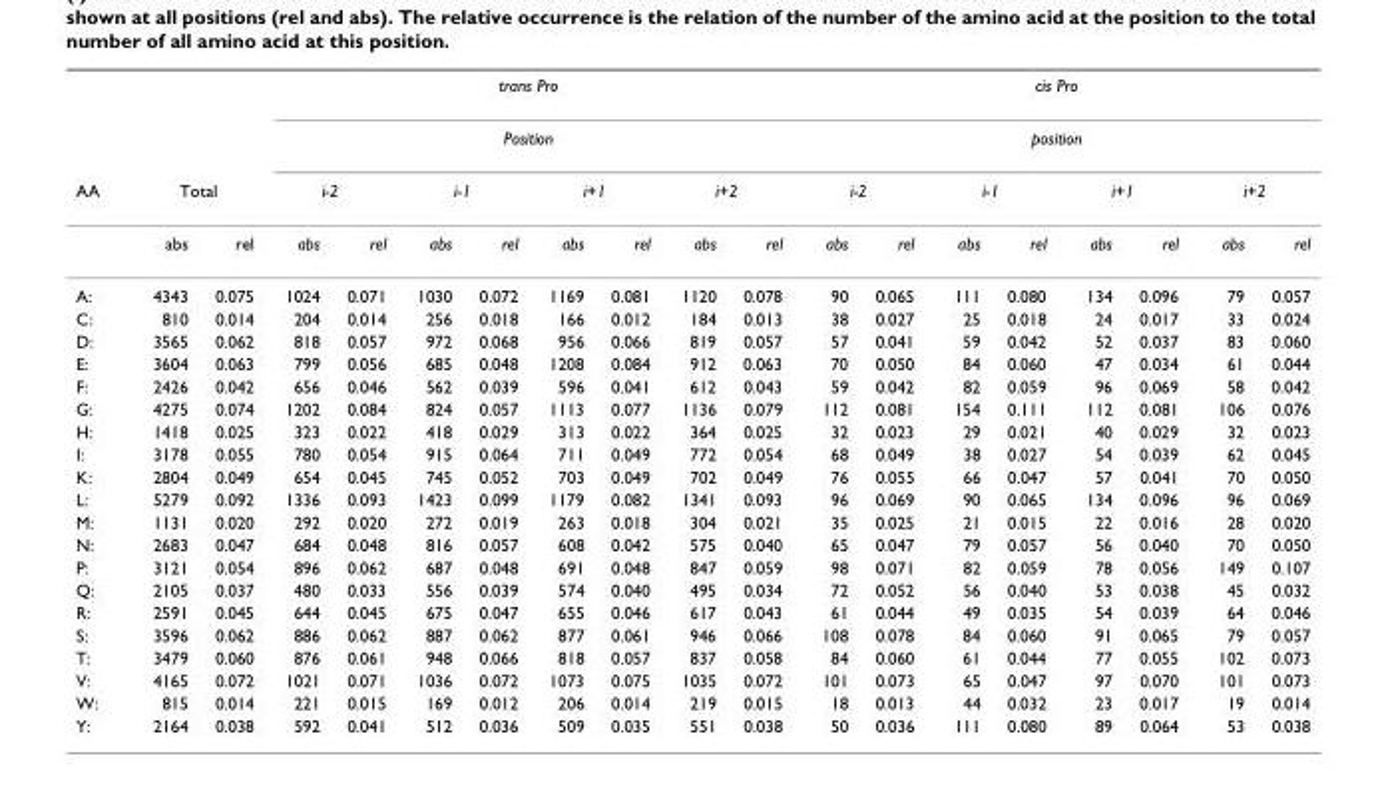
<table><thead><tr><td rowspan="4">AA</td><td rowspan="2"></td><td rowspan="2"></td><td rowspan="2" colspan="8">trans Pro Position</td><td rowspan="2" colspan="8">cis Pro position</td></tr><tr></tr><tr><td colspan="2">Total</td><td colspan="2">i-2</td><td colspan="2">i-1</td><td colspan="2">i+1</td><td colspan="2">i+2</td><td colspan="2">i-2</td><td colspan="2">i-1</td><td colspan="2">i+1</td><td colspan="2">i+2</td></tr><tr><td>abs</td><td>rel</td><td>abs</td><td>rel</td><td>abs</td><td>rel</td><td>abs</td><td>rel</td><td>abs</td><td>rel</td><td>abs</td><td>rel</td><td>abs</td><td>rel</td><td>abs</td><td>rel</td><td>abs</td><td>rel</td></tr></thead><tbody><tr><td>A:</td><td>4343</td><td>0.075</td><td>1024</td><td>0.071</td><td>1030</td><td>0.072</td><td>1169</td><td>0.081</td><td>1120</td><td>0.078</td><td>90</td><td>0.065</td><td>111</td><td>0.080</td><td>134</td><td>0.096</td><td>79</td><td>0.057</td></tr><tr><td>C:</td><td>810</td><td>0.014</td><td>204</td><td>0.014</td><td>256</td><td>0.018</td><td>166</td><td>0.012</td><td>184</td><td>0.013</td><td>38</td><td>0.027</td><td>25</td><td>0.018</td><td>24</td><td>0.017</td><td>33</td><td>0.024</td></tr><tr><td>D:</td><td>3565</td><td>0.062</td><td>818</td><td>0.057</td><td>972</td><td>0.068</td><td>956</td><td>0.066</td><td>819</td><td>0.057</td><td>57</td><td>0.041</td><td>59</td><td>0.042</td><td>52</td><td>0.037</td><td>83</td><td>0.060</td></tr><tr><td>E:</td><td>3604</td><td>0.063</td><td>799</td><td>0.056</td><td>685</td><td>0.048</td><td>1208</td><td>0.084</td><td>912</td><td>0.063</td><td>70</td><td>0.050</td><td>84</td><td>0.060</td><td>47</td><td>0.034</td><td>61</td><td>0.044</td></tr><tr><td>F:</td><td>2426</td><td>0.042</td><td>656</td><td>0.046</td><td>562</td><td>0.039</td><td>596</td><td>0.041</td><td>612</td><td>0.043</td><td>59</td><td>0.042</td><td>82</td><td>0.059</td><td>96</td><td>0.069</td><td>58</td><td>0.042</td></tr><tr><td>G:</td><td>4275</td><td>0.074</td><td>1202</td><td>0.084</td><td>824</td><td>0.057</td><td>1113</td><td>0.077</td><td>1136</td><td>0.079</td><td>112</td><td>0.081</td><td>154</td><td>0.111</td><td>112</td><td>0.081</td><td>106</td><td>0.076</td></tr><tr><td>H:</td><td>1418</td><td>0.025</td><td>323</td><td>0.022</td><td>418</td><td>0.029</td><td>313</td><td>0.022</td><td>364</td><td>0.025</td><td>32</td><td>0.023</td><td>29</td><td>0.021</td><td>40</td><td>0.029</td><td>32</td><td>0.023</td></tr><tr><td>I:</td><td>3178</td><td>0.055</td><td>780</td><td>0.054</td><td>915</td><td>0.064</td><td>711</td><td>0.049</td><td>772</td><td>0.054</td><td>68</td><td>0.049</td><td>38</td><td>0.027</td><td>54</td><td>0.039</td><td>62</td><td>0.045</td></tr><tr><td>K:</td><td>2804</td><td>0.049</td><td>654</td><td>0.045</td><td>745</td><td>0.052</td><td>703</td><td>0.049</td><td>702</td><td>0.049</td><td>76</td><td>0.055</td><td>66</td><td>0.047</td><td>57</td><td>0.041</td><td>70</td><td>0.050</td></tr><tr><td>L:</td><td>5279</td><td>0.092</td><td>1336</td><td>0.093</td><td>1423</td><td>0.099</td><td>1179</td><td>0.082</td><td>1341</td><td>0.093</td><td>96</td><td>0.069</td><td>90</td><td>0.065</td><td>134</td><td>0.096</td><td>96</td><td>0.069</td></tr><tr><td>M:</td><td>1131</td><td>0.020</td><td>292</td><td>0.020</td><td>272</td><td>0.019</td><td>263</td><td>0.018</td><td>304</td><td>0.021</td><td>35</td><td>0.025</td><td>21</td><td>0.015</td><td>22</td><td>0.016</td><td>28</td><td>0.020</td></tr><tr><td>N:</td><td>2683</td><td>0.047</td><td>684</td><td>0.048</td><td>816</td><td>0.057</td><td>608</td><td>0.042</td><td>575</td><td>0.040</td><td>65</td><td>0.047</td><td>79</td><td>0.057</td><td>56</td><td>0.040</td><td>70</td><td>0.050</td></tr><tr><td>P:</td><td>3121</td><td>0.054</td><td>896</td><td>0.062</td><td>687</td><td>0.048</td><td>691</td><td>0.048</td><td>847</td><td>0.059</td><td>98</td><td>0.071</td><td>82</td><td>0.059</td><td>78</td><td>0.056</td><td>149</td><td>0.107</td></tr><tr><td>Q:</td><td>2105</td><td>0.037</td><td>480</td><td>0.033</td><td>556</td><td>0.039</td><td>574</td><td>0.040</td><td>495</td><td>0.034</td><td>72</td><td>0.052</td><td>56</td><td>0.040</td><td>53</td><td>0.038</td><td>45</td><td>0.032</td></tr><tr><td>R:</td><td>2591</td><td>0.045</td><td>644</td><td>0.045</td><td>675</td><td>0.047</td><td>655</td><td>0.046</td><td>617</td><td>0.043</td><td>61</td><td>0.044</td><td>49</td><td>0.035</td><td>54</td><td>0.039</td><td>64</td><td>0.046</td></tr><tr><td>S:</td><td>3596</td><td>0.062</td><td>886</td><td>0.062</td><td>887</td><td>0.062</td><td>877</td><td>0.061</td><td>946</td><td>0.066</td><td>108</td><td>0.078</td><td>84</td><td>0.060</td><td>91</td><td>0.065</td><td>79</td><td>0.057</td></tr><tr><td>T:</td><td>3479</td><td>0.060</td><td>876</td><td>0.061</td><td>948</td><td>0.066</td><td>818</td><td>0.057</td><td>837</td><td>0.058</td><td>84</td><td>0.060</td><td>61</td><td>0.044</td><td>77</td><td>0.055</td><td>102</td><td>0.073</td></tr><tr><td>V:</td><td>4165</td><td>0.072</td><td>1021</td><td>0.071</td><td>1036</td><td>0.072</td><td>1073</td><td>0.075</td><td>1035</td><td>0.072</td><td>101</td><td>0.073</td><td>65</td><td>0.047</td><td>97</td><td>0.070</td><td>101</td><td>0.073</td></tr><tr><td>W:</td><td>815</td><td>0.014</td><td>221</td><td>0.015</td><td>169</td><td>0.012</td><td>206</td><td>0.014</td><td>219</td><td>0.015</td><td>18</td><td>0.013</td><td>44</td><td>0.032</td><td>23</td><td>0.017</td><td>19</td><td>0.014</td></tr><tr><td>Y:</td><td>2164</td><td>0.038</td><td>592</td><td>0.041</td><td>512</td><td>0.036</td><td>509</td><td>0.035</td><td>551</td><td>0.038</td><td>50</td><td>0.036</td><td>111</td><td>0.080</td><td>89</td><td>0.064</td><td>53</td><td>0.038</td></tr></tbody></table>